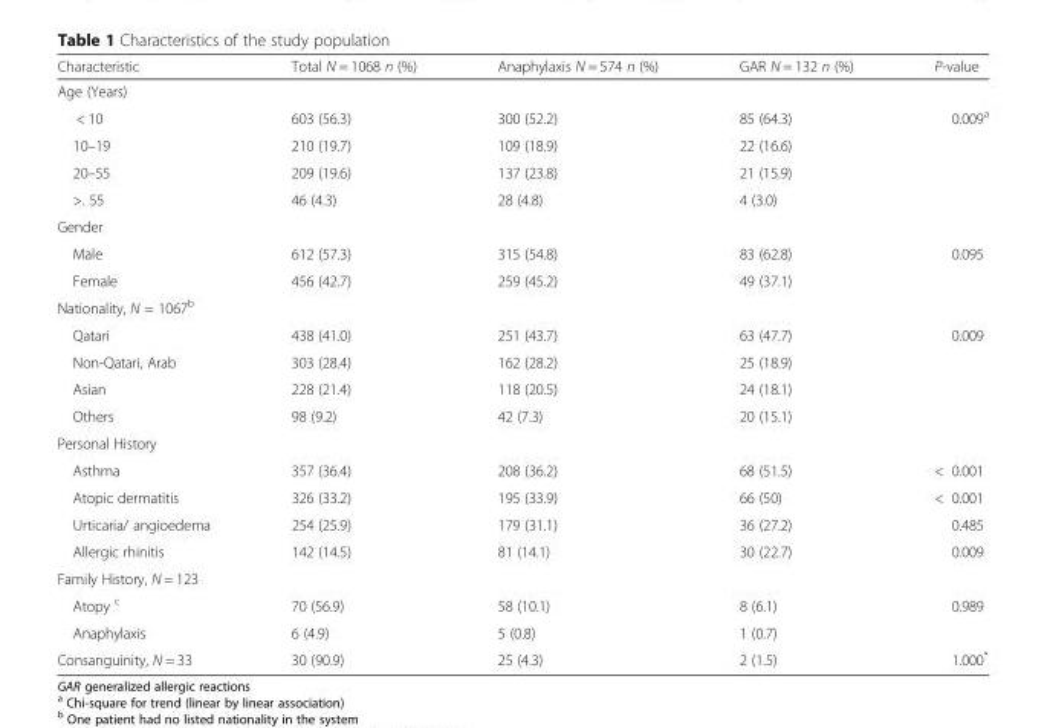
<table><thead><tr><td>Characteristic</td><td>Total N = 1068 n (%)</td><td>Anaphylaxis N = 574 n (%)</td><td>GAR N = 132 n (%)</td><td>P-value</td></tr></thead><tbody><tr><td colspan="5">Age (Years)</td></tr><tr><td>&lt; 10</td><td>603 (56.3)</td><td>300 (52.2)</td><td>85 (64.3)</td><td rowspan="4">0.009<sup>a</sup></td></tr><tr><td>10–19</td><td>210 (19.7)</td><td>109 (18.9)</td><td>22 (16.6)</td></tr><tr><td>20–55</td><td>209 (19.6)</td><td>137 (23.8)</td><td>21 (15.9)</td></tr><tr><td>&gt;. 55</td><td>46 (4.3)</td><td>28 (4.8)</td><td>4 (3.0)</td></tr><tr><td colspan="5">Gender</td></tr><tr><td>Male</td><td>612 (57.3)</td><td>315 (54.8)</td><td>83 (62.8)</td><td rowspan="2">0.095</td></tr><tr><td>Female</td><td>456 (42.7)</td><td>259 (45.2)</td><td>49 (37.1)</td></tr><tr><td colspan="5">Nationality, N = 1067<sup>b</sup></td></tr><tr><td>Qatari</td><td>438 (41.0)</td><td>251 (43.7)</td><td>63 (47.7)</td><td rowspan="4">0.009</td></tr><tr><td>Non-Qatari, Arab</td><td>303 (28.4)</td><td>162 (28.2)</td><td>25 (18.9)</td></tr><tr><td>Asian</td><td>228 (21.4)</td><td>118 (20.5)</td><td>24 (18.1)</td></tr><tr><td>Others</td><td>98 (9.2)</td><td>42 (7.3)</td><td>20 (15.1)</td></tr><tr><td colspan="5">Personal History</td></tr><tr><td>Asthma</td><td>357 (36.4)</td><td>208 (36.2)</td><td>68 (51.5)</td><td>&lt; 0.001</td></tr><tr><td>Atopic dermatitis</td><td>326 (33.2)</td><td>195 (33.9)</td><td>66 (50)</td><td>&lt; 0.001</td></tr><tr><td>Urticaria/ angioedema</td><td>254 (25.9)</td><td>179 (31.1)</td><td>36 (27.2)</td><td>0.485</td></tr><tr><td>Allergic rhinitis</td><td>142 (14.5)</td><td>81 (14.1)</td><td>30 (22.7)</td><td>0.009</td></tr><tr><td colspan="5">Family History, N = 123</td></tr><tr><td>Atopy <sup>c</sup></td><td>70 (56.9)</td><td>58 (10.1)</td><td>8 (6.1)</td><td rowspan="2">0.989</td></tr><tr><td>Anaphylaxis</td><td>6 (4.9)</td><td>5 (0.8)</td><td>1 (0.7)</td></tr><tr><td>Consanguinity, N = 33</td><td>30 (90.9)</td><td>25 (4.3)</td><td>2 (1.5)</td><td>1.000*</td></tr></tbody></table>